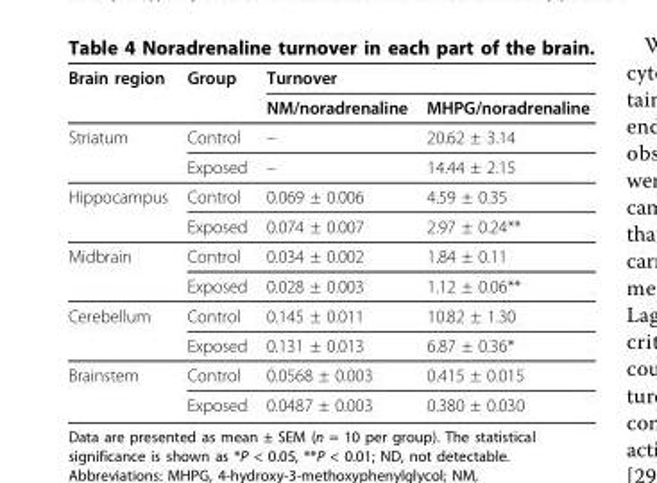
<table><thead><tr><td rowspan="2">Brain region</td><td rowspan="2">Group</td><td colspan="2">Turnover</td></tr><tr><td>NM/noradrenaline</td><td>MHPG/noradrenaline</td></tr></thead><tbody><tr><td rowspan="2">Striatum</td><td>Control</td><td>–</td><td>20.62 ± 3.14</td></tr><tr><td>Exposed</td><td>–</td><td>14.44 ± 2.15</td></tr><tr><td rowspan="2">Hippocampus</td><td>Control</td><td>0.069 ± 0.006</td><td>4.59 ± 0.35</td></tr><tr><td>Exposed</td><td>0.074 ± 0.007</td><td>2.97 ± 0.24**</td></tr><tr><td rowspan="2">Midbrain</td><td>Control</td><td>0.034 ± 0.002</td><td>1.84 ± 0.11</td></tr><tr><td>Exposed</td><td>0.028 ± 0.003</td><td>1.12 ± 0.06**</td></tr><tr><td rowspan="2">Cerebellum</td><td>Control</td><td>0.145 ± 0.011</td><td>10.82 ± 1.30</td></tr><tr><td>Exposed</td><td>0.131 ± 0.013</td><td>6.87 ± 0.36*</td></tr><tr><td rowspan="2">Brainstem</td><td>Control</td><td>0.0568 ± 0.003</td><td>0.415 ± 0.015</td></tr><tr><td>Exposed</td><td>0.0487 ± 0.003</td><td>0.380 ± 0.030</td></tr></tbody></table>